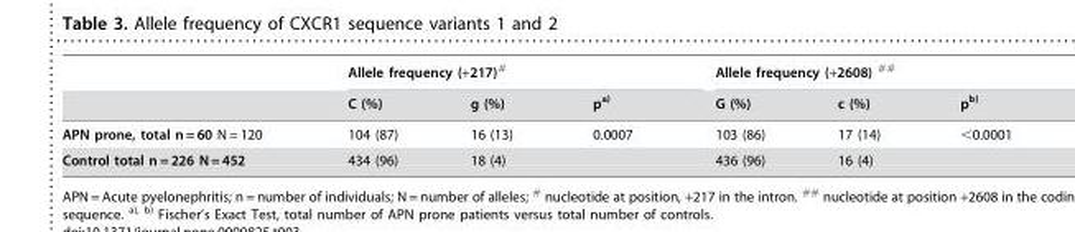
<table><thead><tr><td rowspan="2"></td><td colspan="3">Allele frequency (+217)<sup>#</sup></td><td colspan="3">Allele frequency (+2608) <sup>##</sup></td></tr><tr><td>C (%)</td><td>g (%)</td><td>p<sup>a)</sup></td><td>G (%)</td><td>c (%)</td><td>p<sup>b)</sup></td></tr></thead><tbody><tr><td>APN prone, total n = 60 N = 120</td><td>104 (87)</td><td>16 (13)</td><td>0.0007</td><td>103 (86)</td><td>17 (14)</td><td>&lt;0.0001</td></tr><tr><td>Control total n = 226 N = 452</td><td>434 (96)</td><td>18 (4)</td><td></td><td>436 (96)</td><td>16 (4)</td><td></td></tr></tbody></table>